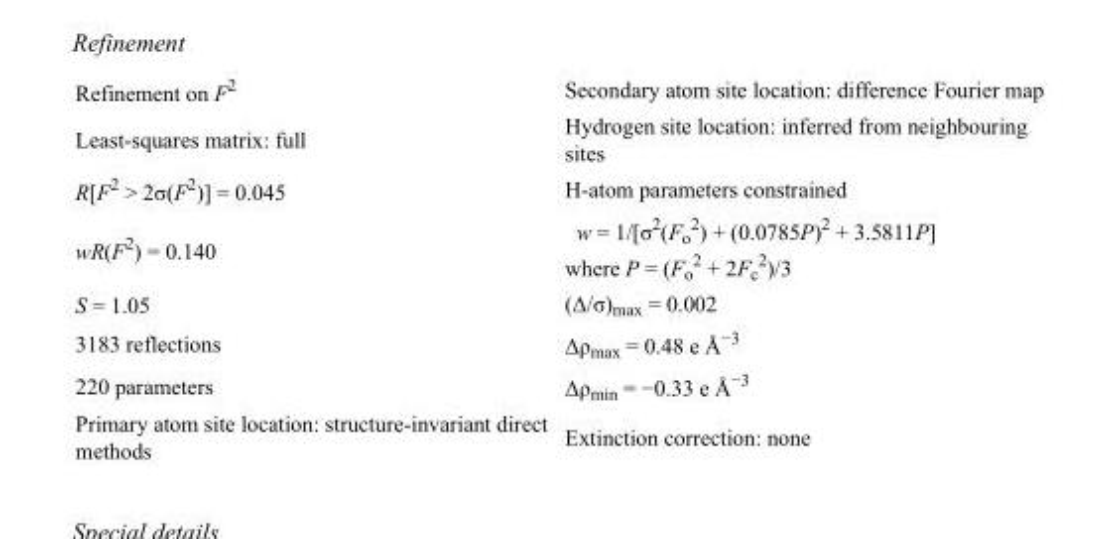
<table><tbody><tr><td>Refinement on F<sup>2</sup></td><td>Secondary atom site location: difference Fourier map</td></tr><tr><td>Least-squares matrix: full</td><td>Hydrogen site location: inferred from neighbouring sites</td></tr><tr><td>R[F<sup>2</sup> &gt; 2σ(F<sup>2</sup>)] = 0.045</td><td>H-atom parameters constrained</td></tr><tr><td>wR(F<sup>2</sup>) = 0.140</td><td>w = 1/[σ<sup>2</sup>(F<sub>o</sub> <sup>2</sup>) + (0.0785P)<sup>2</sup> + 3.5811P] where P = (F<sub>o</sub> <sup>2</sup> + 2F<sub>c</sub> <sup>2</sup>)/3</td></tr><tr><td>S = 1.05</td><td>(Δ/σ)<sub>max</sub> = 0.002</td></tr><tr><td>3183 reflections</td><td>Δρ<sub>max</sub> = 0.48 e Å<sup>−3</sup></td></tr><tr><td>220 parameters</td><td>Δρ<sub>min</sub> = −0.33 e Å<sup>−3</sup></td></tr><tr><td>Primary atom site location: structure-invariant direct methods</td><td>Extinction correction: none</td></tr></tbody></table>